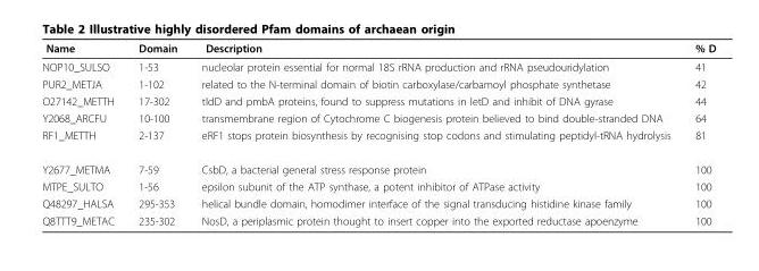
<table><thead><tr><td>Name</td><td>Domain</td><td>Description</td><td>% D</td></tr></thead><tbody><tr><td>NOP10_SULSO</td><td>1-53</td><td>nucleolar protein essential for normal 18S rRNA production and rRNA pseudouridylation</td><td>41</td></tr><tr><td>PUR2_METJA</td><td>1-102</td><td>related to the N-terminal domain of biotin carboxylase/carbamoyl phosphate synthetase</td><td>42</td></tr><tr><td>O27142_METTH</td><td>17-302</td><td>tldD and pmbA proteins, found to suppress mutations in letD and inhibit of DNA gyrase</td><td>44</td></tr><tr><td>Y2068_ARCFU</td><td>10-100</td><td>transmembrane region of Cytochrome C biogenesis protein believed to bind double-stranded DNA</td><td>64</td></tr><tr><td>RF1_METTH</td><td>2-137</td><td>eRF1 stops protein biosynthesis by recognising stop codons and stimulating peptidyl-tRNA hydrolysis</td><td>81</td></tr><tr><td>Y2677_METMA</td><td>7-59</td><td>CsbD, a bacterial general stress response protein</td><td>100</td></tr><tr><td>MTPE_SULTO</td><td>1-56</td><td>epsilon subunit of the ATP synthase, a potent inhibitor of ATPase activity</td><td>100</td></tr><tr><td>Q48297_HALSA</td><td>295-353</td><td>helical bundle domain, homodimer interface of the signal transducing histidine kinase family</td><td>100</td></tr><tr><td>Q8TTT9_METAC</td><td>235-302</td><td>NosD, a periplasmic protein thought to insert copper into the exported reductase apoenzyme</td><td>100</td></tr></tbody></table>